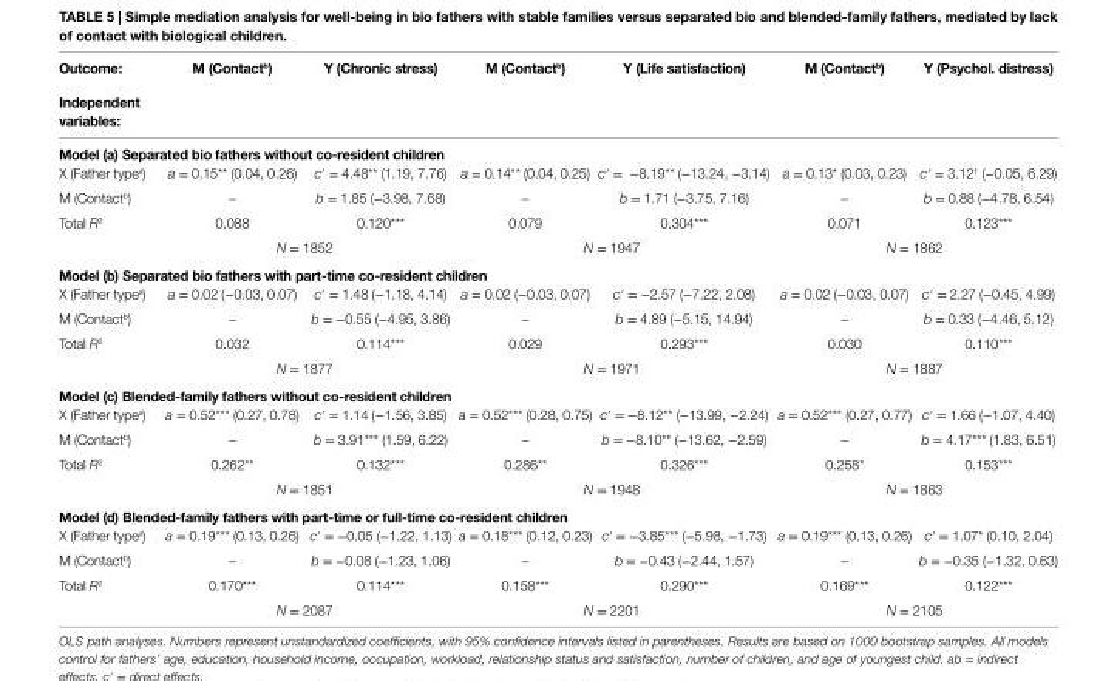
<table><thead><tr><td rowspan="2">Outcome: independent variables:</td><td rowspan="2">M (contact<sup>b</sup>)</td><td rowspan="2">Y (chronic stress)</td><td rowspan="2">M (contact<sup>b</sup>)</td><td rowspan="2">Y (life satisfaction)</td><td rowspan="2">M (contact<sup>b</sup>)</td><td rowspan="2">Y (Psychol. distress)</td></tr><tr></tr></thead><tbody><tr><td colspan="7">Model (a) separated bio fathers without co-resident children</td></tr><tr><td>X (Father type<sup>a</sup>)</td><td>a = 0.15** (0.04, 0.26)</td><td>c′ = 4.48** (1.19, 7.76)</td><td>a = 0.14** (0.04, 0.25)</td><td>c′ = −8.19** (−13.24, −3.14)</td><td>a = 0.13* (0.03, 0.23)</td><td>c′ = 3.12<sup>†</sup> (−0.05, 6.29)</td></tr><tr><td>M (Contact<sup>b</sup>)</td><td>–</td><td>b = 1.85 (−3.98, 7.68)</td><td>–</td><td>b = 1.71 (−3.75, 7.16)</td><td>–</td><td>b = 0.88 (−4.78, 6.54)</td></tr><tr><td rowspan="2">Total R<sup>2</sup></td><td>0.088</td><td>0.120***</td><td>0.079</td><td>0.304***</td><td>0.071</td><td>0.123***</td></tr><tr><td colspan="2">N = 1852</td><td colspan="2">N = 1947</td><td colspan="2">N = 1862</td></tr><tr><td colspan="7">Model (b) separated bio fathers with part-time co-resident children</td></tr><tr><td>X (Father type<sup>a</sup>)</td><td>a = 0.02 (−0.03, 0.07)</td><td>c′ = 1.48 (−1.18, 4.14)</td><td>a = 0.02 (−0.03, 0.07)</td><td>c′ = −2.57 (−7.22, 2.08)</td><td>a = 0.02 (−0.03, 0.07)</td><td>c′ = 2.27 (−0.45, 4.99)</td></tr><tr><td>M (Contact<sup>b</sup>)</td><td>–</td><td>b = −0.55 (−4.95, 3.86)</td><td>–</td><td>b = 4.89 (−5.15, 14.94)</td><td>–</td><td>b = 0.33 (−4.46, 5.12)</td></tr><tr><td rowspan="2">Total R<sup>2</sup></td><td>0.032</td><td>0.114***</td><td>0.029</td><td>0.293***</td><td>0.030</td><td>0.110***</td></tr><tr><td colspan="2">N = 1877</td><td colspan="2">N = 1971</td><td colspan="2">N = 1887</td></tr><tr><td colspan="7">Model (c) Blended-family fathers without co-resident children</td></tr><tr><td>X (Father type<sup>a</sup>)</td><td>a = 0.52*** (0.27, 0.78)</td><td>c′ = 1.14 (−1.56, 3.85)</td><td>a = 0.52*** (0.28, 0.75)</td><td>c′ = −8.12** (−13.99, −2.24)</td><td>a = 0.52*** (0.27, 0.77)</td><td>c′ = 1.66 (−1.07, 4.40)</td></tr><tr><td>M (Contact<sup>b</sup>)</td><td>–</td><td>b = 3.91*** (1.59, 6.22)</td><td>–</td><td>b = −8.10** (−13.62, −2.59)</td><td>–</td><td>b = 4.17*** (1.83, 6.51)</td></tr><tr><td rowspan="2">Total R<sup>2</sup></td><td>0.262**</td><td>0.132***</td><td>0.286**</td><td>0.326***</td><td>0.258*</td><td>0.153***</td></tr><tr><td colspan="2">N = 1851</td><td colspan="2">N = 1948</td><td colspan="2">N = 1863</td></tr><tr><td colspan="7">Model (d) Blended-family fathers with part-time or full-time co-resident children</td></tr><tr><td>X (Father type<sup>a</sup>)</td><td>a = 0.19*** (0.13, 0.26)</td><td>c′ = −0.05 (−1.22, 1.13)</td><td>a = 0.18*** (0.12, 0.23)</td><td>c′ = −3.85*** (−5.98, −1.73)</td><td>a = 0.19*** (0.13, 0.26)</td><td>c′ = 1.07* (0.10, 2.04)</td></tr><tr><td>M (Contact<sup>b</sup>)</td><td>–</td><td>b = −0.08 (−1.23, 1.06)</td><td>–</td><td>b = −0.43 (−2.44, 1.57)</td><td>–</td><td>b = −0.35 (−1.32, 0.63)</td></tr><tr><td rowspan="2">Total R<sup>2</sup></td><td>0.170***</td><td>0.114***</td><td>0.158***</td><td>0.290***</td><td>0.169***</td><td>0.122***</td></tr><tr><td colspan="2">N = 2087</td><td colspan="2">N = 2201</td><td colspan="2">N = 2105</td></tr></tbody></table>